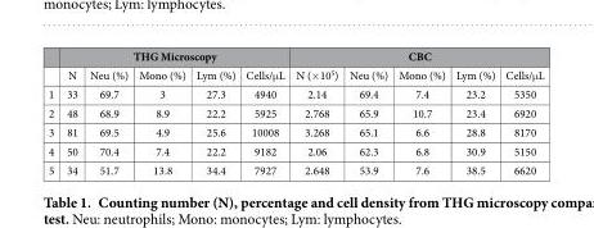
<table><thead><tr><td rowspan="2"></td><td colspan="5">THG Microscopy</td><td colspan="5">CBC</td></tr><tr><td>N</td><td>Neu (%)</td><td>Mono (%)</td><td>Lym (%)</td><td>Cells/μ L</td><td>N (× 10<sup>5</sup>)</td><td>Neu (%)</td><td>Mono (%)</td><td>Lym (%)</td><td>Cells/μ L</td></tr></thead><tbody><tr><td>1</td><td>33</td><td>69.7</td><td>3</td><td>27.3</td><td>4940</td><td>2.14</td><td>69.4</td><td>7.4</td><td>23.2</td><td>5350</td></tr><tr><td>2</td><td>48</td><td>68.9</td><td>8.9</td><td>22.2</td><td>5925</td><td>2.768</td><td>65.9</td><td>10.7</td><td>23.4</td><td>6920</td></tr><tr><td>3</td><td>81</td><td>69.5</td><td>4.9</td><td>25.6</td><td>10008</td><td>3.268</td><td>65.1</td><td>6.6</td><td>28.8</td><td>8170</td></tr><tr><td>4</td><td>50</td><td>70.4</td><td>7.4</td><td>22.2</td><td>9182</td><td>2.06</td><td>62.3</td><td>6.8</td><td>30.9</td><td>5150</td></tr><tr><td>5</td><td>34</td><td>51.7</td><td>13.8</td><td>34.4</td><td>7927</td><td>2.648</td><td>53.9</td><td>7.6</td><td>38.5</td><td>6620</td></tr></tbody></table>